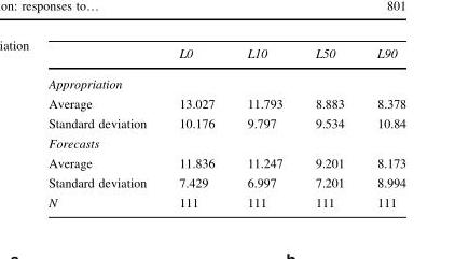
<table><thead><tr><td></td><td>L0</td><td>L10</td><td>L50</td><td>L90</td></tr></thead><tbody><tr><td colspan="5">Appropriation</td></tr><tr><td>Average</td><td>13.027</td><td>11.793</td><td>8.883</td><td>8.378</td></tr><tr><td>Standard deviation</td><td>10.176</td><td>9.797</td><td>9.534</td><td>10.84</td></tr><tr><td colspan="5">Forecasts</td></tr><tr><td>Average</td><td>11.836</td><td>11.247</td><td>9.201</td><td>8.173</td></tr><tr><td>Standard deviation</td><td>7.429</td><td>6.997</td><td>7.201</td><td>8.994</td></tr><tr><td>N</td><td>111</td><td>111</td><td>111</td><td>111</td></tr></tbody></table>